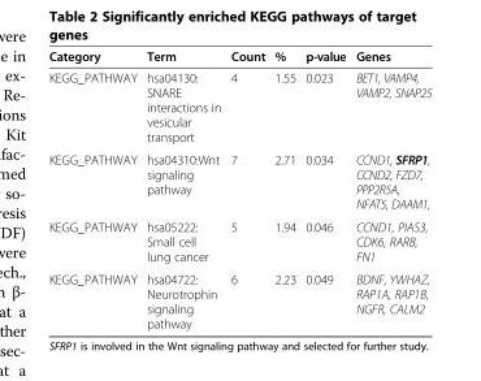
<table><thead><tr><td>Category</td><td>Term</td><td>Count</td><td>%</td><td>p-value</td><td>Genes</td></tr></thead><tbody><tr><td>KEGG_PATHWAY</td><td>hsa04130: SNARE interactions in vesicular transport</td><td>4</td><td>1.55</td><td>0.023</td><td>BET1, VAMP4, VAMP2, SNAP25</td></tr><tr><td>KEGG_PATHWAY</td><td>hsa04310:Wnt signaling pathway</td><td>7</td><td>2.71</td><td>0.034</td><td>CCND1, SFRP1, CCND2, FZD7, PPP2R5A, NFAT5, DAAM1,</td></tr><tr><td>KEGG_PATHWAY</td><td>hsa05222: Small cell lung cancer</td><td>5</td><td>1.94</td><td>0.046</td><td>CCND1, PIAS3, CDK6, RARB, FN1</td></tr><tr><td>KEGG_PATHWAY</td><td>hsa04722: Neurotrophin signaling pathway</td><td>6</td><td>2.23</td><td>0.049</td><td>BDNF, YWHAZ, RAP1A, RAP1B, NGFR, CALM2</td></tr></tbody></table>